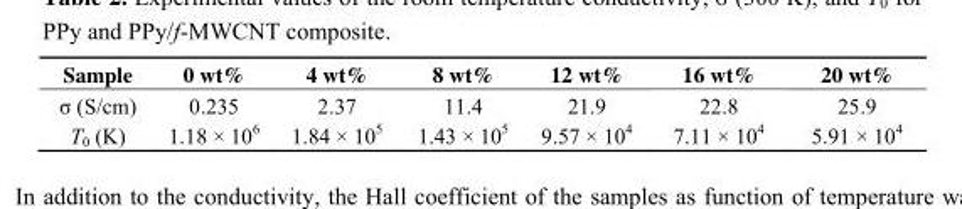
<table><thead><tr><td>Sample</td><td>0 wt%</td><td>4 wt%</td><td>8 wt%</td><td>12 wt%</td><td>16 wt%</td><td>20 wt%</td></tr></thead><tbody><tr><td>σ (S/cm)</td><td>0.235</td><td>2.37</td><td>11.4</td><td>21.9</td><td>22.8</td><td>25.9</td></tr><tr><td>T<sup>0</sup> (K)</td><td>1.18 × 10<sup>6</sup></td><td>1.84 × 10<sup>5</sup></td><td>1.43 × 10<sup>5</sup></td><td>9.57 × 10<sup>4</sup></td><td>7.11 × 10<sup>4</sup></td><td>5.91 × 10<sup>4</sup></td></tr></tbody></table>